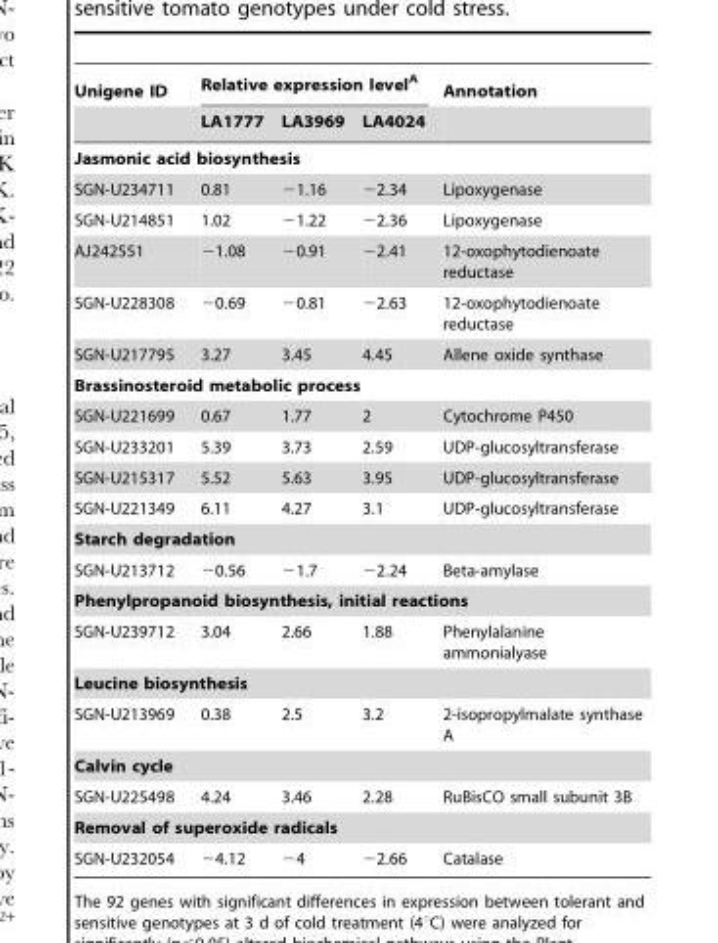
<table><thead><tr><td rowspan="2">Unigene ID</td><td colspan="3">Relative expression level<sup>A</sup></td><td rowspan="2">Annotation</td></tr><tr><td>LA1777</td><td>LA3969</td><td>LA4024</td></tr></thead><tbody><tr><td colspan="5">Jasmonic acid biosynthesis</td></tr><tr><td>SGN-U234711</td><td>0.81</td><td>−1.16</td><td>−2.34</td><td>Lipoxygenase</td></tr><tr><td>SGN-U214851</td><td>1.02</td><td>−1.22</td><td>−2.36</td><td>Lipoxygenase</td></tr><tr><td>AJ242551</td><td>−1.08</td><td>−0.91</td><td>−2.41</td><td>12-oxophytodienoate reductase</td></tr><tr><td>SGN-U228308</td><td>−0.69</td><td>−0.81</td><td>−2.63</td><td>12-oxophytodienoate reductase</td></tr><tr><td>SGN-U217795</td><td>3.27</td><td>3.45</td><td>4.45</td><td>Allene oxide synthase</td></tr><tr><td colspan="5">Brassinosteroid metabolic process</td></tr><tr><td>SGN-U221699</td><td>0.67</td><td>1.77</td><td>2</td><td>Cytochrome P450</td></tr><tr><td>SGN-U233201</td><td>5.39</td><td>3.73</td><td>2.59</td><td>UDP-glucosyltransferase</td></tr><tr><td>SGN-U215317</td><td>5.52</td><td>5.63</td><td>3.95</td><td>UDP-glucosyltransferase</td></tr><tr><td>SGN-U221349</td><td>6.11</td><td>4.27</td><td>3.1</td><td>UDP-glucosyltransferase</td></tr><tr><td colspan="5">Starch degradation</td></tr><tr><td>SGN-U213712</td><td>−0.56</td><td>−1.7</td><td>−2.24</td><td>Beta-amylase</td></tr><tr><td colspan="5">Phenylpropanoid biosynthesis, initial reactions</td></tr><tr><td>SGN-U239712</td><td>3.04</td><td>2.66</td><td>1.88</td><td>Phenylalanine ammonialyase</td></tr><tr><td colspan="5">Leucine biosynthesis</td></tr><tr><td>SGN-U213969</td><td>0.38</td><td>2.5</td><td>3.2</td><td>2-isopropylmalate synthase A</td></tr><tr><td colspan="5">Calvin cycle</td></tr><tr><td>SGN-U225498</td><td>4.24</td><td>3.46</td><td>2.28</td><td>RuBisCO small subunit 3B</td></tr><tr><td colspan="5">Removal of superoxide radicals</td></tr><tr><td>SGN-U232054</td><td>−4.12</td><td>−4</td><td>−2.66</td><td>Catalase</td></tr></tbody></table>